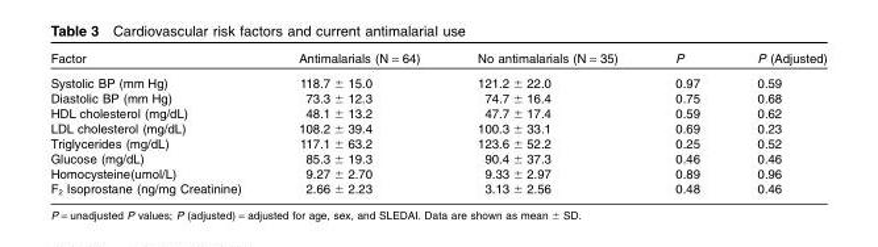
<table><thead><tr><td>Factor</td><td>Antimalarials (N = 64)</td><td>No antimalarials (N = 35)</td><td>P</td><td>P (Adjusted)</td></tr></thead><tbody><tr><td>Systolic BP (mm Hg)</td><td>118.7 ± 15.0</td><td>121.2 ± 22.0</td><td>0.97</td><td>0.59</td></tr><tr><td>Diastolic BP (mm Hg)</td><td>73.3 ± 12.3</td><td>74.7 ± 16.4</td><td>0.75</td><td>0.68</td></tr><tr><td>HDL cholesterol (mg/dL)</td><td>48.1 ± 13.2</td><td>47.7 ± 17.4</td><td>0.59</td><td>0.62</td></tr><tr><td>LDL cholesterol (mg/dL)</td><td>108.2 ± 39.4</td><td>100.3 ± 33.1</td><td>0.69</td><td>0.23</td></tr><tr><td>Triglycerides (mg/dL)</td><td>117.1 ± 63.2</td><td>123.6 ± 52.2</td><td>0.25</td><td>0.52</td></tr><tr><td>Glucose (mg/dL)</td><td>85.3 ± 19.3</td><td>90.4 ± 37.3</td><td>0.46</td><td>0.46</td></tr><tr><td>Homocysteine(umol/L)</td><td>9.27 ± 2.70</td><td>9.33 ± 2.97</td><td>0.89</td><td>0.96</td></tr><tr><td>F<sub>2</sub> Isoprostane (ng/mg Creatinine)</td><td>2.66 ± 2.23</td><td>3.13 ± 2.56</td><td>0.48</td><td>0.46</td></tr></tbody></table>